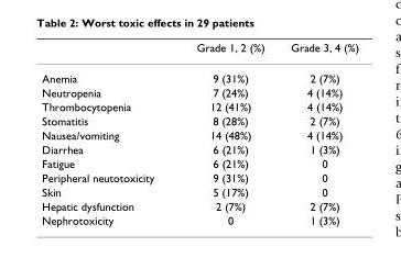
<table><thead><tr><td></td><td>Grade 1, 2 (%)</td><td>Grade 3, 4 (%)</td></tr></thead><tbody><tr><td>Anemia</td><td>9 (31%)</td><td>2 (7%)</td></tr><tr><td>Neutropenia</td><td>7 (24%)</td><td>4 (14%)</td></tr><tr><td>Thrombocytopenia</td><td>12 (41%)</td><td>4 (14%)</td></tr><tr><td>Stomatitis</td><td>8 (28%)</td><td>2 (7%)</td></tr><tr><td>Nausea/vomiting</td><td>14 (48%)</td><td>4 (14%)</td></tr><tr><td>Diarrhea</td><td>6 (21%)</td><td>1 (3%)</td></tr><tr><td>Fatigue</td><td>6 (21%)</td><td>0</td></tr><tr><td>Peripheral neutotoxicity</td><td>9 (31%)</td><td>0</td></tr><tr><td>Skin</td><td>5 (17%)</td><td>0</td></tr><tr><td>Hepatic dysfunction</td><td>2 (7%)</td><td>2 (7%)</td></tr><tr><td>Nephrotoxicity</td><td>0</td><td>1 (3%)</td></tr></tbody></table>